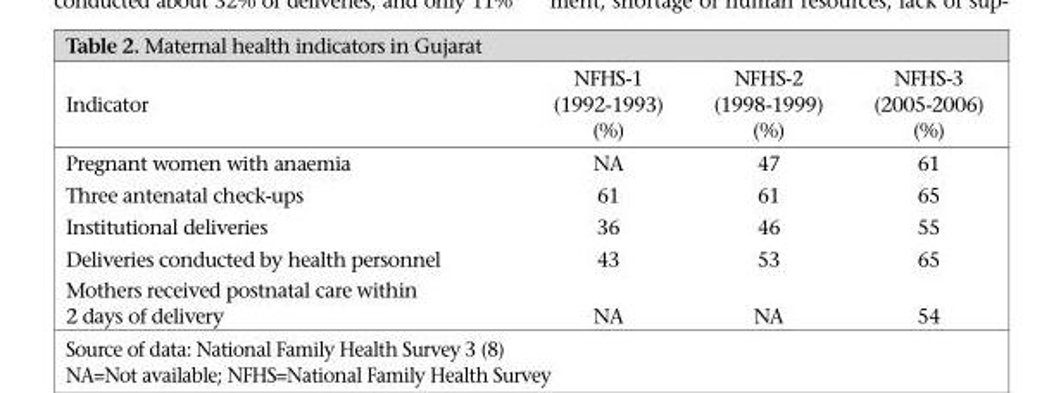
<table><thead><tr><td>Indicator</td><td>NFHS-1 (1992-1993) (%)</td><td>NFHS-2 (1998-1999) (%)</td><td>NFHS-3 (2005-2006) (%)</td></tr></thead><tbody><tr><td>Pregnant women with anaemia</td><td>NA</td><td>47</td><td>61</td></tr><tr><td>Three antenatal check-ups</td><td>61</td><td>61</td><td>65</td></tr><tr><td>Institutional deliveries</td><td>36</td><td>46</td><td>55</td></tr><tr><td>Deliveries conducted by health personnel</td><td>43</td><td>53</td><td>65</td></tr><tr><td>Mothers received postnatal care within 2 days of delivery</td><td>NA</td><td>NA</td><td>54</td></tr></tbody></table>